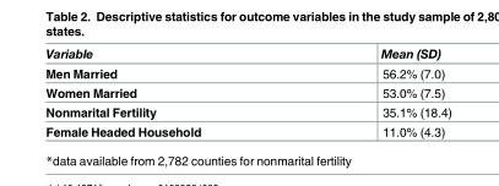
<table><thead><tr><td>Variable</td><td>Mean (SD)</td></tr></thead><tbody><tr><td>Men Married</td><td>56.2% (7.0)</td></tr><tr><td>Women Married</td><td>53.0% (7.5)</td></tr><tr><td>Nonmarital Fertility</td><td>35.1% (18.4)</td></tr><tr><td>Female Headed Household</td><td>11.0% (4.3)</td></tr></tbody></table>